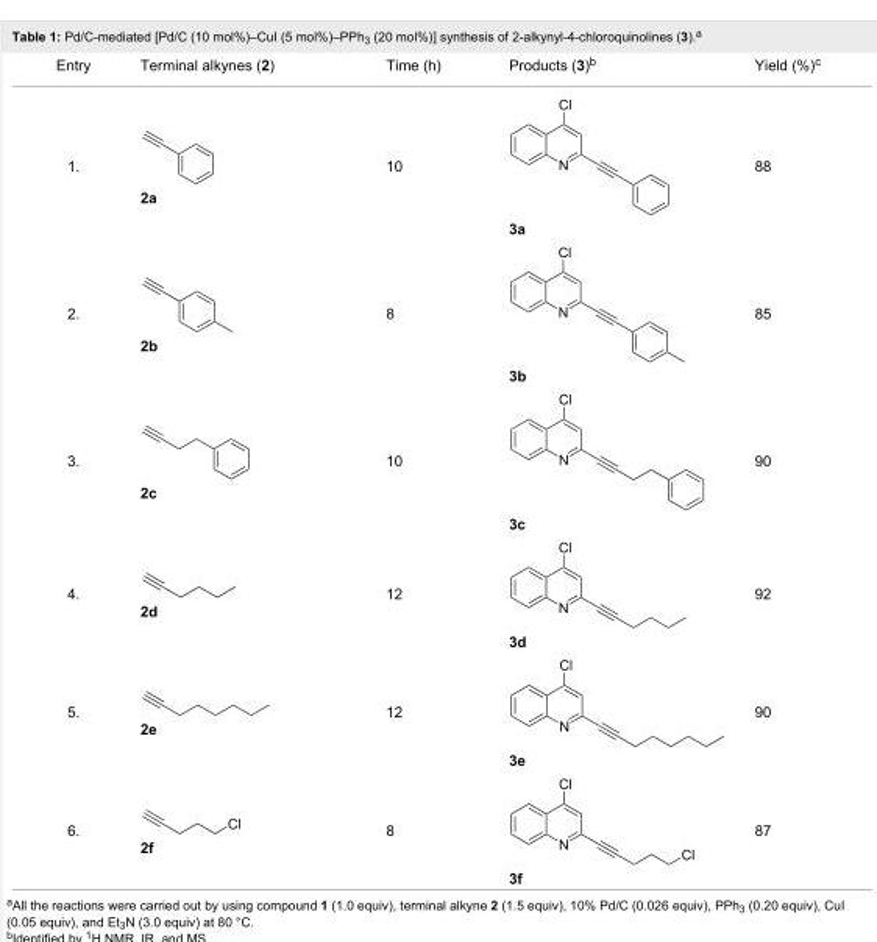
<table><tbody><tr><td>Entry</td><td>Terminal alkynes (2)</td><td>Time (h)</td><td>Products (3)<sup>b</sup></td><td>Yield (%)<sup>c</sup></td></tr><tr><td>1.</td><td>2a</td><td>10</td><td>3a</td><td>88</td></tr><tr><td>2.</td><td>2b</td><td>8</td><td>3b</td><td>85</td></tr><tr><td>3.</td><td>2c</td><td>10</td><td>3c</td><td>90</td></tr><tr><td>4.</td><td>2d</td><td>12</td><td>3d</td><td>92</td></tr><tr><td>5.</td><td>2e</td><td>12</td><td>3e</td><td>90</td></tr><tr><td>6.</td><td>2f</td><td>8</td><td>3f</td><td>87</td></tr></tbody></table>